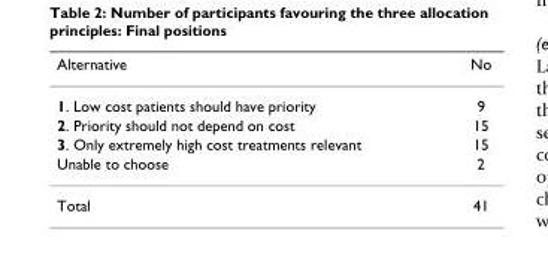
<table><thead><tr><td>Alternative</td><td>No</td></tr></thead><tbody><tr><td>1. Low cost patients should have priority</td><td>9</td></tr><tr><td>2. Priority should not depend on cost</td><td>15</td></tr><tr><td>3. Only extremely high cost treatments relevant</td><td>15</td></tr><tr><td>Unable to choose</td><td>2</td></tr><tr><td>Total</td><td>41</td></tr></tbody></table>